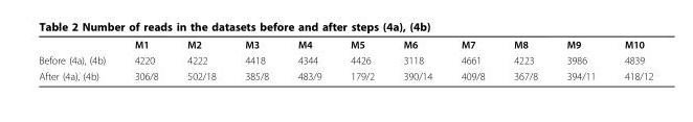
<table><thead><tr><td></td><td>M1</td><td>M2</td><td>M3</td><td>M4</td><td>M5</td><td>M6</td><td>M7</td><td>M8</td><td>M9</td><td>M10</td></tr></thead><tbody><tr><td>Before (4a), (4b)</td><td>4220</td><td>4222</td><td>4418</td><td>4344</td><td>4426</td><td>3118</td><td>4661</td><td>4223</td><td>3986</td><td>4839</td></tr><tr><td>After (4a), (4b)</td><td>306/8</td><td>502/18</td><td>385/8</td><td>483/9</td><td>179/2</td><td>390/14</td><td>409/8</td><td>367/8</td><td>394/11</td><td>418/12</td></tr></tbody></table>